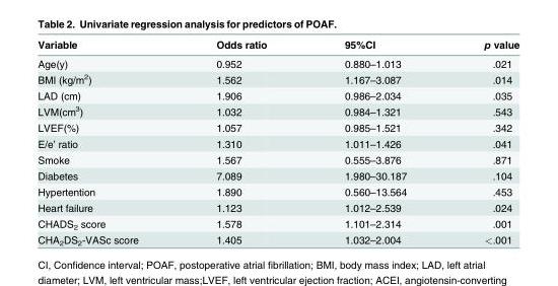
<table><thead><tr><td>Variable</td><td>Odds ratio</td><td>95%CI</td><td>p value</td></tr></thead><tbody><tr><td>Age(y)</td><td>0.952</td><td>0.880–1.013</td><td>.021</td></tr><tr><td>BMI (kg/m<sup>2</sup>)</td><td>1.562</td><td>1.167–3.087</td><td>.014</td></tr><tr><td>LAD (cm)</td><td>1.906</td><td>0.986–2.034</td><td>.035</td></tr><tr><td>LVM(cm<sup>3</sup>)</td><td>1.032</td><td>0.984–1.321</td><td>.543</td></tr><tr><td>LVEF(%)</td><td>1.057</td><td>0.985–1.521</td><td>.342</td></tr><tr><td>E/e’ ratio</td><td>1.310</td><td>1.011–1.426</td><td>.041</td></tr><tr><td>Smoke</td><td>1.567</td><td>0.555–3.876</td><td>.871</td></tr><tr><td>Diabetes</td><td>7.089</td><td>1.980–30.187</td><td>.104</td></tr><tr><td>Hypertention</td><td>1.890</td><td>0.560–13.564</td><td>.453</td></tr><tr><td>Heart failure</td><td>1.123</td><td>1.012–2.539</td><td>.024</td></tr><tr><td>CHADS<sub>2</sub> score</td><td>1.578</td><td>1.101–2.314</td><td>.001</td></tr><tr><td>CHA<sub>2</sub>DS<sub>2</sub>-VASc score</td><td>1.405</td><td>1.032–2.004</td><td>&lt;.001</td></tr></tbody></table>